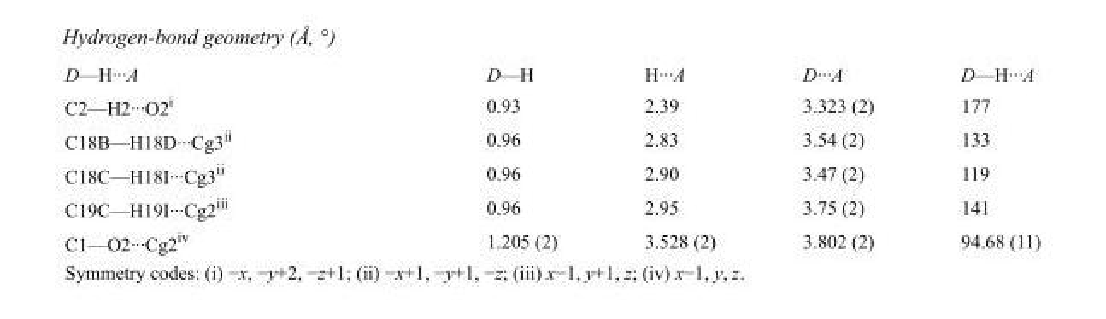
<table><tbody><tr><td>D—H···A</td><td>D—H</td><td>H···A</td><td>D···A</td><td>D—H···A</td></tr><tr><td>C2—H2···O2<sup>i</sup></td><td>0.93</td><td>2.39</td><td>3.323 (2)</td><td>177</td></tr><tr><td>C18B—H18D···Cg3<sup>ii</sup></td><td>0.96</td><td>2.83</td><td>3.54 (2)</td><td>133</td></tr><tr><td>C18C—H18I···Cg3<sup>ii</sup></td><td>0.96</td><td>2.90</td><td>3.47 (2)</td><td>119</td></tr><tr><td>C19C—H19I···Cg2<sup>iii</sup></td><td>0.96</td><td>2.95</td><td>3.75 (2)</td><td>141</td></tr><tr><td>C1—O2···Cg2<sup>iv</sup></td><td>1.205 (2)</td><td>3.528 (2)</td><td>3.802 (2)</td><td>94.68 (11)</td></tr></tbody></table>